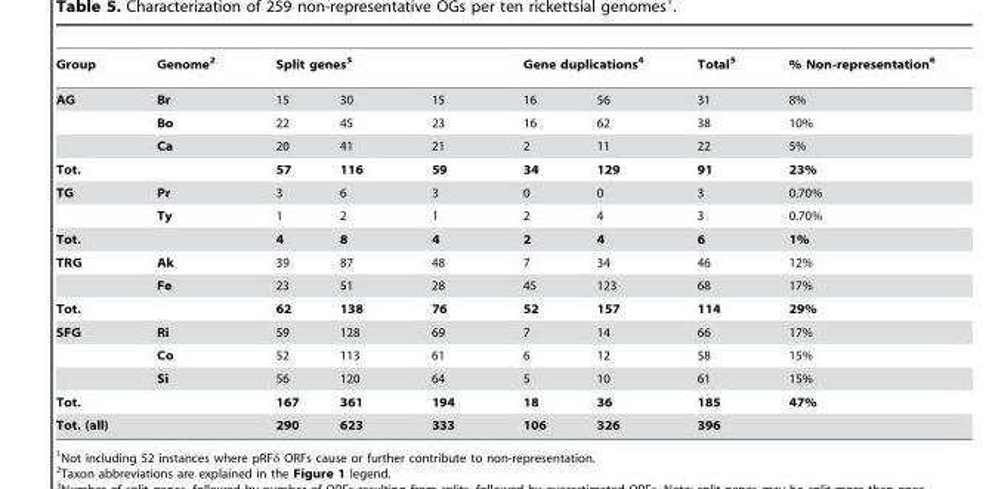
<table><thead><tr><td rowspan="2">Group AG</td><td rowspan="2">Genome<sup>2</sup> Br</td><td colspan="3">Split genes<sup>3</sup></td><td colspan="2">Gene duplications<sup>4</sup></td><td rowspan="2">Total<sup>5</sup> 31</td><td rowspan="2">% Non-representation<sup>6</sup> 8%</td></tr><tr><td>15</td><td>30</td><td>15</td><td>16</td><td>56</td></tr></thead><tbody><tr><td></td><td>Bo</td><td>22</td><td>45</td><td>23</td><td>16</td><td>62</td><td>38</td><td>10%</td></tr><tr><td></td><td>Ca</td><td>20</td><td>41</td><td>21</td><td>2</td><td>11</td><td>22</td><td>5%</td></tr><tr><td>Tot.</td><td></td><td>57</td><td>116</td><td>59</td><td>34</td><td>129</td><td>91</td><td>23%</td></tr><tr><td rowspan="2">TG</td><td>Pr</td><td>3</td><td>6</td><td>3</td><td>0</td><td>0</td><td>3</td><td>0.70%</td></tr><tr><td>Ty</td><td>1</td><td>2</td><td>1</td><td>2</td><td>4</td><td>3</td><td>0.70%</td></tr><tr><td>Tot.</td><td></td><td>4</td><td>8</td><td>4</td><td>2</td><td>4</td><td>6</td><td>1%</td></tr><tr><td rowspan="2">TRG</td><td>Ak</td><td>39</td><td>87</td><td>48</td><td>7</td><td>34</td><td>46</td><td>12%</td></tr><tr><td>Fe</td><td>23</td><td>51</td><td>28</td><td>45</td><td>123</td><td>68</td><td>17%</td></tr><tr><td>Tot.</td><td></td><td>62</td><td>138</td><td>76</td><td>52</td><td>157</td><td>114</td><td>29%</td></tr><tr><td rowspan="3">SFG</td><td>Ri</td><td>59</td><td>128</td><td>69</td><td>7</td><td>14</td><td>66</td><td>17%</td></tr><tr><td>Co</td><td>52</td><td>113</td><td>61</td><td>6</td><td>12</td><td>58</td><td>15%</td></tr><tr><td>Si</td><td>56</td><td>120</td><td>64</td><td>5</td><td>10</td><td>61</td><td>15%</td></tr><tr><td>Tot.</td><td></td><td>167</td><td>361</td><td>194</td><td>18</td><td>36</td><td>185</td><td>47%</td></tr><tr><td>Tot. (all)</td><td></td><td>290</td><td>623</td><td>333</td><td>106</td><td>326</td><td>396</td><td></td></tr></tbody></table>